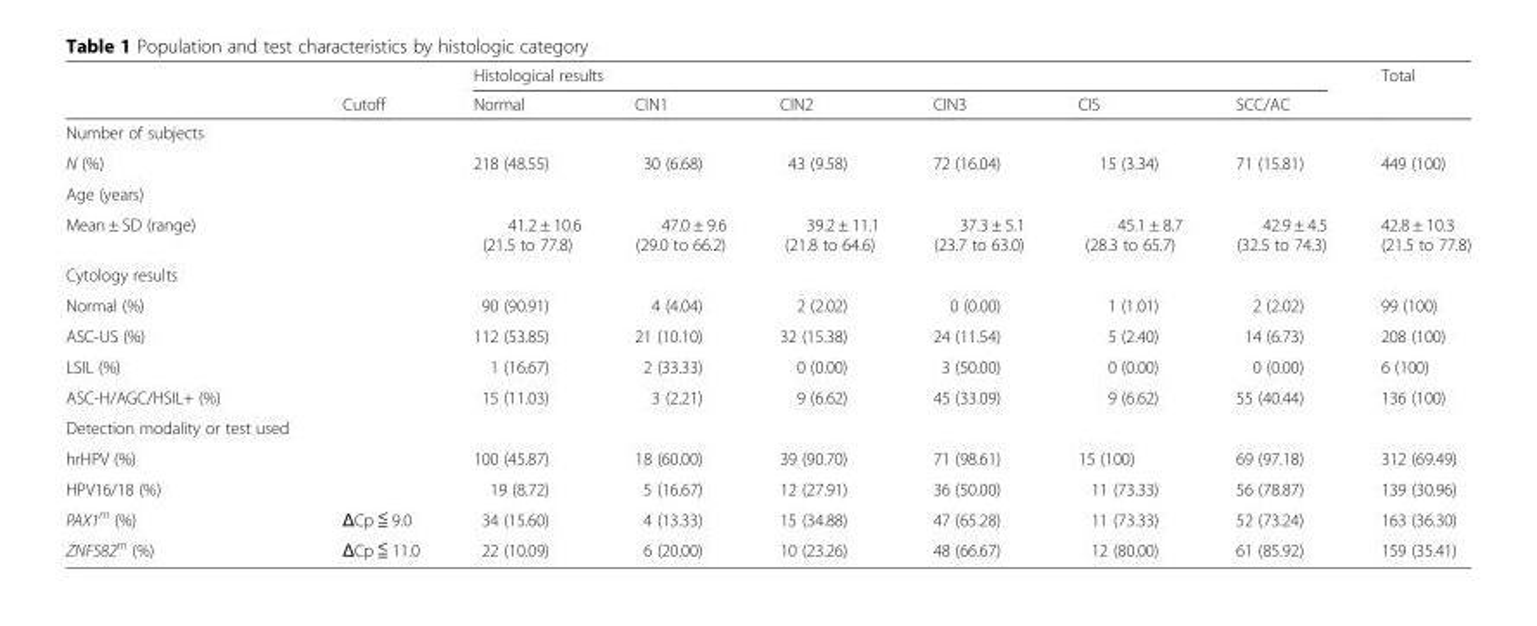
<table><thead><tr><td rowspan="2"></td><td rowspan="2">Cutoff</td><td colspan="6">Histological results</td><td rowspan="2">Total</td></tr><tr><td>Normal</td><td>CIN1</td><td>CIN2</td><td>CIN3</td><td>CIS</td><td>SCC/AC</td></tr></thead><tbody><tr><td colspan="9">Number of subjects</td></tr><tr><td>N (%)</td><td></td><td>218 (48.55)</td><td>30 (6.68)</td><td>43 (9.58)</td><td>72 (16.04)</td><td>15 (3.34)</td><td>71 (15.81)</td><td>449 (100)</td></tr><tr><td colspan="9">Age (years)</td></tr><tr><td>Mean ± SD (range)</td><td></td><td>41.2 ± 10.6 (21.5 to 77.8)</td><td>47.0 ± 9.6 (29.0 to 66.2)</td><td>39.2 ± 11.1 (21.8 to 64.6)</td><td>37.3 ± 5.1 (23.7 to 63.0)</td><td>45.1 ± 8.7 (28.3 to 65.7)</td><td>42.9 ± 4.5 (32.5 to 74.3)</td><td>42.8 ± 10.3 (21.5 to 77.8)</td></tr><tr><td colspan="9">Cytology results</td></tr><tr><td>Normal (%)</td><td></td><td>90 (90.91)</td><td>4 (4.04)</td><td>2 (2.02)</td><td>0 (0.00)</td><td>1 (1.01)</td><td>2 (2.02)</td><td>99 (100)</td></tr><tr><td>ASC-US (%)</td><td></td><td>112 (53.85)</td><td>21 (10.10)</td><td>32 (15.38)</td><td>24 (11.54)</td><td>5 (2.40)</td><td>14 (6.73)</td><td>208 (100)</td></tr><tr><td>LSIL (%)</td><td></td><td>1 (16.67)</td><td>2 (33.33)</td><td>0 (0.00)</td><td>3 (50.00)</td><td>0 (0.00)</td><td>0 (0.00)</td><td>6 (100)</td></tr><tr><td>ASC-H/AGC/HSIL+ (%)</td><td></td><td>15 (11.03)</td><td>3 (2.21)</td><td>9 (6.62)</td><td>45 (33.09)</td><td>9 (6.62)</td><td>55 (40.44)</td><td>136 (100)</td></tr><tr><td colspan="9">Detection modality or test used</td></tr><tr><td>hrHPV (%)</td><td></td><td>100 (45.87)</td><td>18 (60.00)</td><td>39 (90.70)</td><td>71 (98.61)</td><td>15 (100)</td><td>69 (97.18)</td><td>312 (69.49)</td></tr><tr><td>HPV16/18 (%)</td><td></td><td>19 (8.72)</td><td>5 (16.67)</td><td>12 (27.91)</td><td>36 (50.00)</td><td>11 (73.33)</td><td>56 (78.87)</td><td>139 (30.96)</td></tr><tr><td>PAX1<sup>m</sup> (%)</td><td>ΔCp ≦ 9.0</td><td>34 (15.60)</td><td>4 (13.33)</td><td>15 (34.88)</td><td>47 (65.28)</td><td>11 (73.33)</td><td>52 (73.24)</td><td>163 (36.30)</td></tr><tr><td>ZNF582<sup>m</sup> (%)</td><td>ΔCp ≦ 11.0</td><td>22 (10.09)</td><td>6 (20.00)</td><td>10 (23.26)</td><td>48 (66.67)</td><td>12 (80.00)</td><td>61 (85.92)</td><td>159 (35.41)</td></tr></tbody></table>